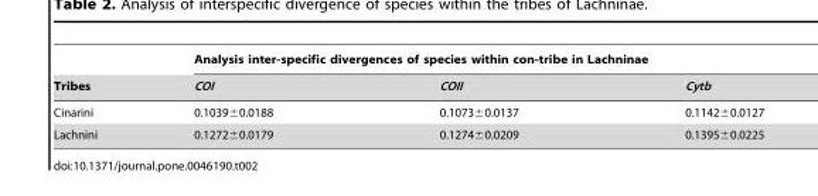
<table><thead><tr><td rowspan="2">Tribes</td><td colspan="3">Analysis inter-specific divergences of species within con-tribe in Lachninae</td></tr><tr><td>COI</td><td>COII</td><td>Cytb</td></tr></thead><tbody><tr><td>Cinarini</td><td>0.1039±0.0188</td><td>0.1073±0.0137</td><td>0.1142±0.0127</td></tr><tr><td>Lachnini</td><td>0.1272±0.0179</td><td>0.1274±0.0209</td><td>0.1395±0.0225</td></tr></tbody></table>